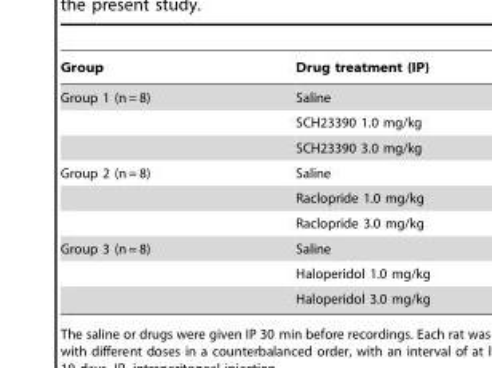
<table><thead><tr><td>Group</td><td>Drug treatment (IP)</td></tr></thead><tbody><tr><td rowspan="3">Group 1 (n = 8)</td><td>Saline</td></tr><tr><td>SCH23390 1.0 mg/kg</td></tr><tr><td>SCH23390 3.0 mg/kg</td></tr><tr><td rowspan="3">Group 2 (n = 8)</td><td>Saline</td></tr><tr><td>Raclopride 1.0 mg/kg</td></tr><tr><td>Raclopride 3.0 mg/kg</td></tr><tr><td rowspan="3">Group 3 (n = 8)</td><td>Saline</td></tr><tr><td>Haloperidol 1.0 mg/kg</td></tr><tr><td>Haloperidol 3.0 mg/kg</td></tr></tbody></table>